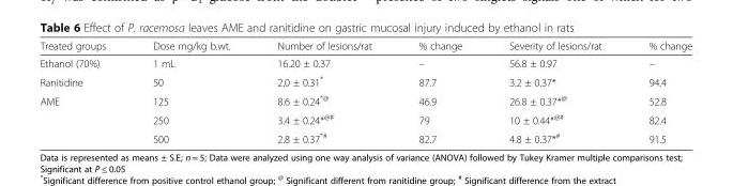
<table><thead><tr><td>Treated groups</td><td>Dose mg/kg b.wt.</td><td>Number of lesions/rat</td><td>% change</td><td>Severity of lesions/rat</td><td>% change</td></tr></thead><tbody><tr><td>Ethanol (70%)</td><td>1 mL</td><td>16.20 ± 0.37</td><td>–</td><td>56.8 ± 0.97</td><td>–</td></tr><tr><td>Ranitidine</td><td>50</td><td>2.0 ± 0.31*</td><td>87.7</td><td>3.2 ± 0.37*</td><td>94.4</td></tr><tr><td rowspan="3">AME</td><td>125</td><td>8.6 ± 0.24<sup>*@</sup></td><td>46.9</td><td>26.8 ± 0.37*<sup>@</sup></td><td>52.8</td></tr><tr><td>250</td><td>3.4 ± 0.24*<sup>@#</sup></td><td>79</td><td>10 ± 0.44*<sup>@#</sup></td><td>82.4</td></tr><tr><td>500</td><td>2.8 ± 0.37<sup>*#</sup></td><td>82.7</td><td>4.8 ± 0.37*<sup>#</sup></td><td>91.5</td></tr></tbody></table>